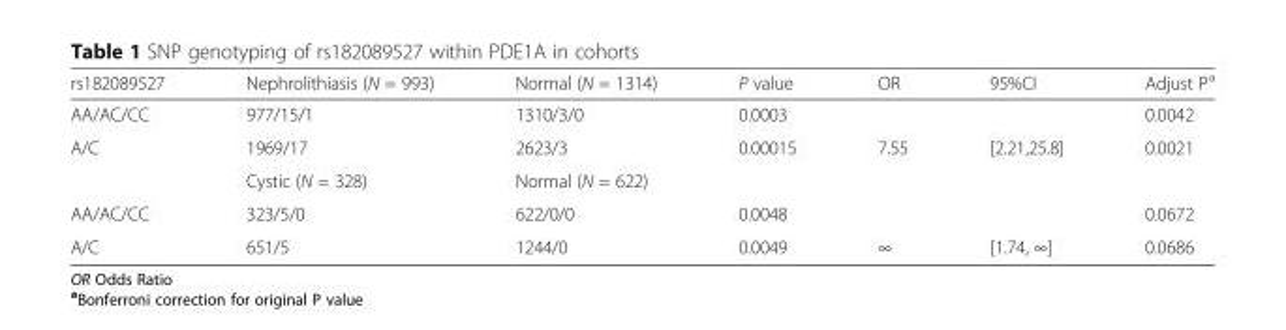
<table><thead><tr><td>rs182089527</td><td>Nephrolithiasis (N = 993)</td><td>Normal (N = 1314)</td><td>P value</td><td>OR</td><td>95%CI</td><td>Adjust P<sup>a</sup></td></tr></thead><tbody><tr><td>AA/AC/CC</td><td>977/15/1</td><td>1310/3/0</td><td>0.0003</td><td></td><td></td><td>0.0042</td></tr><tr><td rowspan="2">A/C</td><td>1969/17</td><td>2623/3</td><td>0.00015</td><td>7.55</td><td>[2.21,25.8]</td><td>0.0021</td></tr><tr><td>Cystic (N = 328)</td><td>Normal (N = 622)</td><td colspan="4"></td></tr><tr><td>AA/AC/CC</td><td>323/5/0</td><td>622/0/0</td><td>0.0048</td><td></td><td></td><td>0.0672</td></tr><tr><td>A/C</td><td>651/5</td><td>1244/0</td><td>0.0049</td><td>∞</td><td>[1.74, ∞]</td><td>0.0686</td></tr></tbody></table>